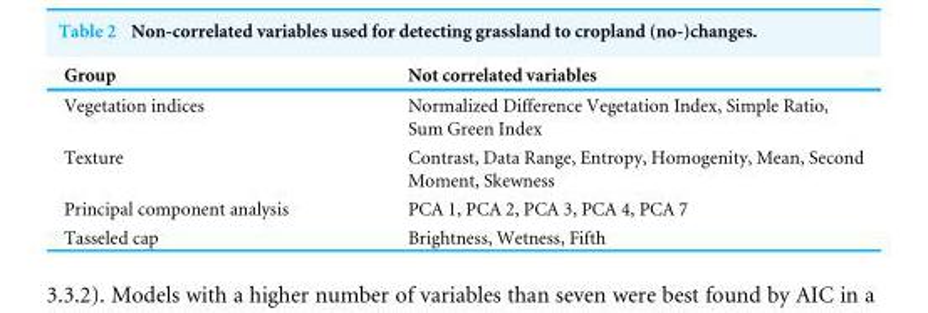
<table><thead><tr><td>Group</td><td>Not correlated variables</td></tr></thead><tbody><tr><td>Vegetation indices</td><td>Normalized Difference Vegetation Index, Simple Ratio, Sum Green Index</td></tr><tr><td>Texture</td><td>Contrast, Data Range, Entropy, Homogenity, Mean, Second Moment, Skewness</td></tr><tr><td>Principal component analysis</td><td>PCA 1, PCA 2, PCA 3, PCA 4, PCA 7</td></tr><tr><td>Tasseled cap</td><td>Brightness, Wetness, Fifth</td></tr></tbody></table>